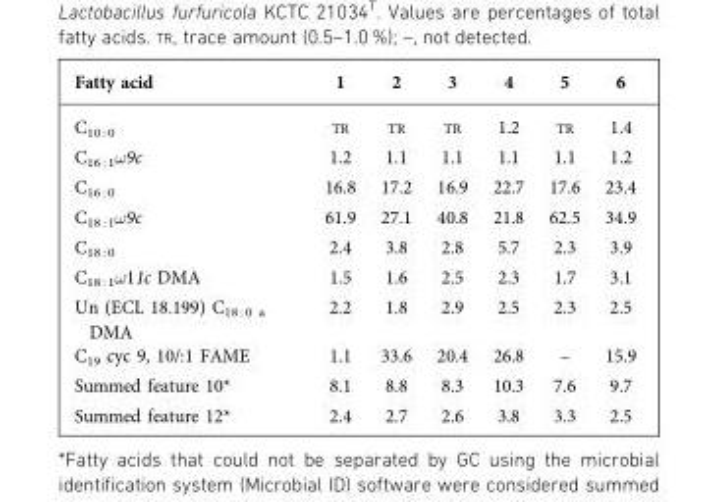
<table><thead><tr><td>Fatty acid</td><td>1</td><td>2</td><td>3</td><td>4</td><td>5</td><td>6</td></tr></thead><tbody><tr><td>C<sub>10 : 0</sub></td><td>TR</td><td>TR</td><td>TR</td><td>1.2</td><td>TR</td><td>1.4</td></tr><tr><td>C16 : 1!9c</td><td>1.2</td><td>1.1</td><td>1.1</td><td>1.1</td><td>1.1</td><td>1.2</td></tr><tr><td>C<sub>16 : 0</sub></td><td>16.8</td><td>17.2</td><td>16.9</td><td>22.7</td><td>17.6</td><td>23.4</td></tr><tr><td>C18 : 1!9c</td><td>61.9</td><td>27.1</td><td>40.8</td><td>21.8</td><td>62.5</td><td>34.9</td></tr><tr><td>C<sub>18 : 0</sub></td><td>2.4</td><td>3.8</td><td>2.8</td><td>5.7</td><td>2.3</td><td>3.9</td></tr><tr><td>C18 : 1!11c DMA</td><td>1.5</td><td>1.6</td><td>2.5</td><td>2.3</td><td>1.7</td><td>3.1</td></tr><tr><td>Un (ECL 18.199) C<sub>18 : 0 a</sub> DMA</td><td>2.2</td><td>1.8</td><td>2.9</td><td>2.5</td><td>2.3</td><td>2.5</td></tr><tr><td>C<sub>19</sub> cyc 9, 10/:1 FAME</td><td>1.1</td><td>33.6</td><td>20.4</td><td>26.8</td><td>–</td><td>15.9</td></tr><tr><td>Summed feature 10*</td><td>8.1</td><td>8.8</td><td>8.3</td><td>10.3</td><td>7.6</td><td>9.7</td></tr><tr><td>Summed feature 12*</td><td>2.4</td><td>2.7</td><td>2.6</td><td>3.8</td><td>3.3</td><td>2.5</td></tr></tbody></table>